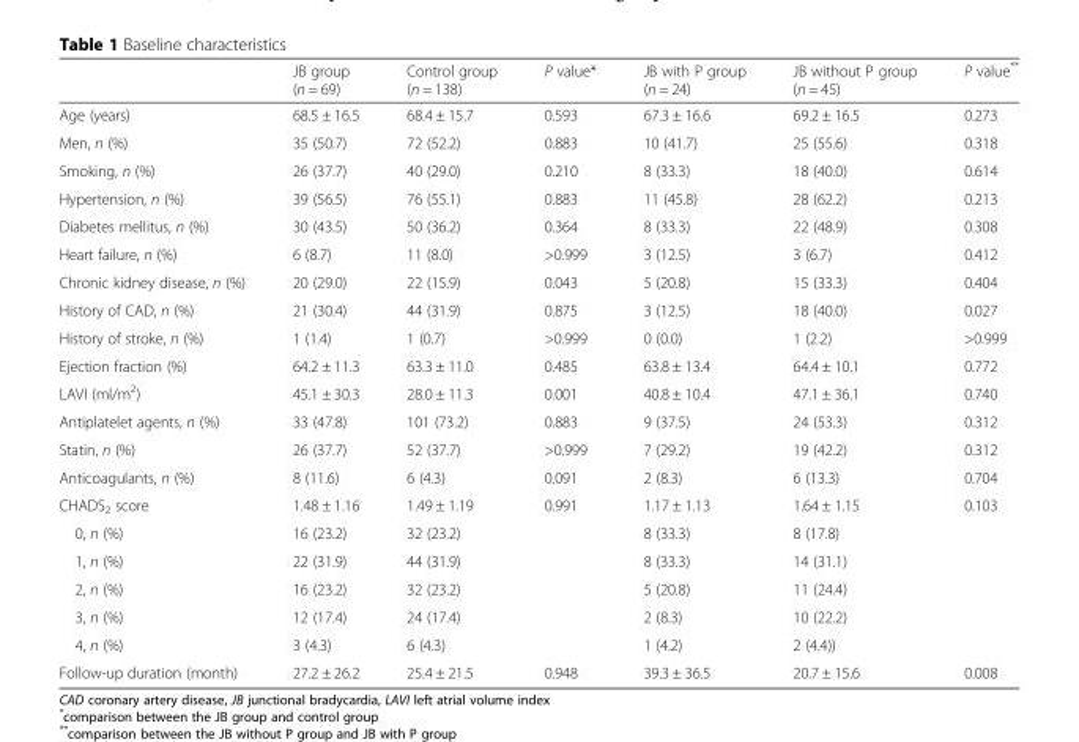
<table><thead><tr><td></td><td>JB group (n = 69)</td><td>Control group (n = 138)</td><td>P value*</td><td>JB with P group (n = 24)</td><td>JB without P group (n = 45)</td><td>P value**</td></tr></thead><tbody><tr><td>Age (years)</td><td>68.5 ± 16.5</td><td>68.4 ± 15.7</td><td>0.593</td><td>67.3 ± 16.6</td><td>69.2 ± 16.5</td><td>0.273</td></tr><tr><td>Men, n (%)</td><td>35 (50.7)</td><td>72 (52.2)</td><td>0.883</td><td>10 (41.7)</td><td>25 (55.6)</td><td>0.318</td></tr><tr><td>Smoking, n (%)</td><td>26 (37.7)</td><td>40 (29.0)</td><td>0.210</td><td>8 (33.3)</td><td>18 (40.0)</td><td>0.614</td></tr><tr><td>Hypertension, n (%)</td><td>39 (56.5)</td><td>76 (55.1)</td><td>0.883</td><td>11 (45.8)</td><td>28 (62.2)</td><td>0.213</td></tr><tr><td>Diabetes mellitus, n (%)</td><td>30 (43.5)</td><td>50 (36.2)</td><td>0.364</td><td>8 (33.3)</td><td>22 (48.9)</td><td>0.308</td></tr><tr><td>Heart failure, n (%)</td><td>6 (8.7)</td><td>11 (8.0)</td><td>&gt;0.999</td><td>3 (12.5)</td><td>3 (6.7)</td><td>0.412</td></tr><tr><td>Chronic kidney disease, n (%)</td><td>20 (29.0)</td><td>22 (15.9)</td><td>0.043</td><td>5 (20.8)</td><td>15 (33.3)</td><td>0.404</td></tr><tr><td>History of CAD, n (%)</td><td>21 (30.4)</td><td>44 (31.9)</td><td>0.875</td><td>3 (12.5)</td><td>18 (40.0)</td><td>0.027</td></tr><tr><td>History of stroke, n (%)</td><td>1 (1.4)</td><td>1 (0.7)</td><td>&gt;0.999</td><td>0 (0.0)</td><td>1 (2.2)</td><td>&gt;0.999</td></tr><tr><td>Ejection fraction (%)</td><td>64.2 ± 11.3</td><td>63.3 ± 11.0</td><td>0.485</td><td>63.8 ± 13.4</td><td>64.4 ± 10.1</td><td>0.772</td></tr><tr><td>LAVI (ml/m<sup>2</sup>)</td><td>45.1 ± 30.3</td><td>28.0 ± 11.3</td><td>0.001</td><td>40.8 ± 10.4</td><td>47.1 ± 36.1</td><td>0.740</td></tr><tr><td>Antiplatelet agents, n (%)</td><td>33 (47.8)</td><td>101 (73.2)</td><td>0.883</td><td>9 (37.5)</td><td>24 (53.3)</td><td>0.312</td></tr><tr><td>Statin, n (%)</td><td>26 (37.7)</td><td>52 (37.7)</td><td>&gt;0.999</td><td>7 (29.2)</td><td>19 (42.2)</td><td>0.312</td></tr><tr><td>Anticoagulants, n (%)</td><td>8 (11.6)</td><td>6 (4.3)</td><td>0.091</td><td>2 (8.3)</td><td>6 (13.3)</td><td>0.704</td></tr><tr><td>CHADS<sub>2</sub> score</td><td>1.48 ± 1.16</td><td>1.49 ± 1.19</td><td>0.991</td><td>1.17 ± 1.13</td><td>1.64 ± 1.15</td><td>0.103</td></tr><tr><td>0, n (%)</td><td>16 (23.2)</td><td>32 (23.2)</td><td></td><td>8 (33.3)</td><td>8 (17.8)</td><td></td></tr><tr><td>1, n (%)</td><td>22 (31.9)</td><td>44 (31.9)</td><td></td><td>8 (33.3)</td><td>14 (31.1)</td><td></td></tr><tr><td>2, n (%)</td><td>16 (23.2)</td><td>32 (23.2)</td><td></td><td>5 (20.8)</td><td>11 (24.4)</td><td></td></tr><tr><td>3, n (%)</td><td>12 (17.4)</td><td>24 (17.4)</td><td></td><td>2 (8.3)</td><td>10 (22.2)</td><td></td></tr><tr><td>4, n (%)</td><td>3 (4.3)</td><td>6 (4.3)</td><td></td><td>1 (4.2)</td><td>2 (4.4))</td><td></td></tr><tr><td>Follow-up duration (month)</td><td>27.2 ± 26.2</td><td>25.4 ± 21.5</td><td>0.948</td><td>39.3 ± 36.5</td><td>20.7 ± 15.6</td><td>0.008</td></tr></tbody></table>